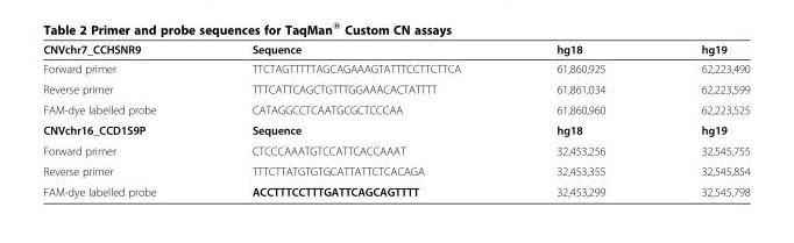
<table><thead><tr><td>CNVchr7_CCHSNR9</td><td>Sequence</td><td>hg18</td><td>hg19</td></tr></thead><tbody><tr><td>Forward primer</td><td>TTCTAGTTTTTAGCAGAAAGTATTTCCTTCTTCA</td><td>61,860,925</td><td>62,223,490</td></tr><tr><td>Reverse primer</td><td>TTTCATTCAGCTGTTTGGAAACACTATTTT</td><td>61,861,034</td><td>62,223,599</td></tr><tr><td>FAM-dye labelled probe</td><td>CATAGGCCTCAATGCGCTCCCAA</td><td>61,860,960</td><td>62,223,525</td></tr><tr><td>CNVchr16_CCD1S9P</td><td>Sequence</td><td>hg18</td><td>hg19</td></tr><tr><td>Forward primer</td><td>CTCCCAAATGTCCATTCACCAAAT</td><td>32,453,256</td><td>32,545,755</td></tr><tr><td>Reverse primer</td><td>TTTCTTATGTGTGCATTATTCTCACAGA</td><td>32,453,355</td><td>32,545,854</td></tr><tr><td>FAM-dye labelled probe</td><td>ACCTTTCCTTTGATTCAGCAGTTTT</td><td>32,453,299</td><td>32,545,798</td></tr></tbody></table>